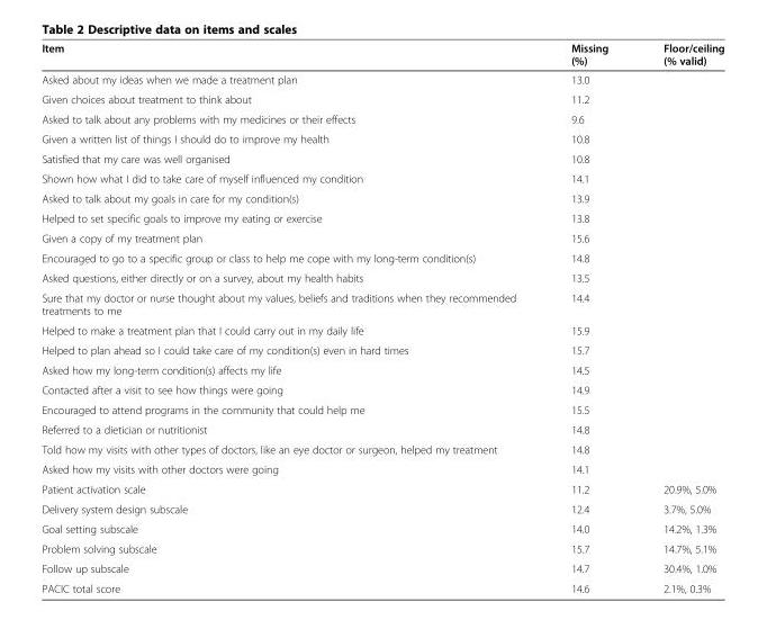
<table><thead><tr><td>Item</td><td>Missing (%)</td><td>Floor/ceiling (% valid)</td></tr></thead><tbody><tr><td>Asked about my ideas when we made a treatment plan</td><td>13.0</td><td></td></tr><tr><td>Given choices about treatment to think about</td><td>11.2</td><td></td></tr><tr><td>Asked to talk about any problems with my medicines or their effects</td><td>9.6</td><td></td></tr><tr><td>Given a written list of things I should do to improve my health</td><td>10.8</td><td></td></tr><tr><td>Satisfied that my care was well organised</td><td>10.8</td><td></td></tr><tr><td>Shown how what I did to take care of myself influenced my condition</td><td>14.1</td><td></td></tr><tr><td>Asked to talk about my goals in care for my condition(s)</td><td>13.9</td><td></td></tr><tr><td>Helped to set specific goals to improve my eating or exercise</td><td>13.8</td><td></td></tr><tr><td>Given a copy of my treatment plan</td><td>15.6</td><td></td></tr><tr><td>Encouraged to go to a specific group or class to help me cope with my long-term condition(s)</td><td>14.8</td><td></td></tr><tr><td>Asked questions, either directly or on a survey, about my health habits</td><td>13.5</td><td></td></tr><tr><td>Sure that my doctor or nurse thought about my values, beliefs and traditions when they recommended treatments to me</td><td>14.4</td><td></td></tr><tr><td>Helped to make a treatment plan that I could carry out in my daily life</td><td>15.9</td><td></td></tr><tr><td>Helped to plan ahead so I could take care of my condition(s) even in hard times</td><td>15.7</td><td></td></tr><tr><td>Asked how my long-term condition(s) affects my life</td><td>14.5</td><td></td></tr><tr><td>Contacted after a visit to see how things were going</td><td>14.9</td><td></td></tr><tr><td>Encouraged to attend programs in the community that could help me</td><td>15.5</td><td></td></tr><tr><td>Referred to a dietician or nutritionist</td><td>14.8</td><td></td></tr><tr><td>Told how my visits with other types of doctors, like an eye doctor or surgeon, helped my treatment</td><td>14.8</td><td></td></tr><tr><td>Asked how my visits with other doctors were going</td><td>14.1</td><td></td></tr><tr><td>Patient activation scale</td><td>11.2</td><td>20.9%, 5.0%</td></tr><tr><td>Delivery system design subscale</td><td>12.4</td><td>3.7%, 5.0%</td></tr><tr><td>Goal setting subscale</td><td>14.0</td><td>14.2%, 1.3%</td></tr><tr><td>Problem solving subscale</td><td>15.7</td><td>14.7%, 5.1%</td></tr><tr><td>Follow up subscale</td><td>14.7</td><td>30.4%, 1.0%</td></tr><tr><td>PACIC total score</td><td>14.6</td><td>2.1%, 0.3%</td></tr></tbody></table>